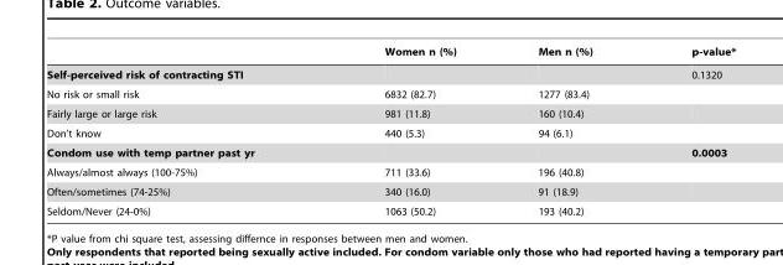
<table><thead><tr><td></td><td>Women n (%)</td><td>Men n (%)</td><td>p-value*</td></tr></thead><tbody><tr><td>Self-perceived risk of contracting STI</td><td></td><td></td><td>0.1320</td></tr><tr><td>No risk or small risk</td><td>6832 (82.7)</td><td>1277 (83.4)</td><td></td></tr><tr><td>Fairly large or large risk</td><td>981 (11.8)</td><td>160 (10.4)</td><td></td></tr><tr><td>Don’t know</td><td>440 (5.3)</td><td>94 (6.1)</td><td></td></tr><tr><td>Condom use with temp partner past yr</td><td></td><td></td><td>0.0003</td></tr><tr><td>Always/almost always (100-75%)</td><td>711 (33.6)</td><td>196 (40.8)</td><td></td></tr><tr><td>Often/sometimes (74-25%)</td><td>340 (16.0)</td><td>91 (18.9)</td><td></td></tr><tr><td>Seldom/Never (24-0%)</td><td>1063 (50.2)</td><td>193 (40.2)</td><td></td></tr></tbody></table>